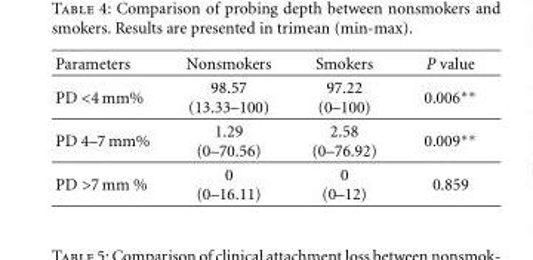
<table><thead><tr><td>Parameters</td><td>Nonsmokers</td><td>Smokers</td><td>P value</td></tr></thead><tbody><tr><td>PD &lt;4 mm%</td><td>98.57 (13.33–100)</td><td>97.22 (0–100)</td><td>0.006∗∗</td></tr><tr><td>PD 4–7 mm%</td><td>1.29 (0–70.56)</td><td>2.58 (0–76.92)</td><td>0.009∗∗</td></tr><tr><td>PD &gt;7 mm %</td><td>0 (0–16.11)</td><td>0 (0–12)</td><td>0.859</td></tr></tbody></table>